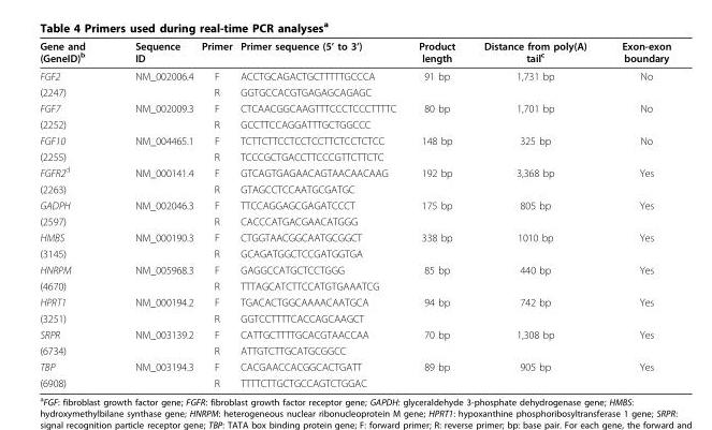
<table><thead><tr><td>Gene and (GeneID)<sup>b</sup></td><td>Sequence ID</td><td>Primer</td><td>Primer sequence (5’ to 3’)</td><td>Product length</td><td>Distance from poly(A) tail<sup>c</sup></td><td>Exon-exon boundary</td></tr></thead><tbody><tr><td>FGF2</td><td>NM_002006.4</td><td>F</td><td>ACCTGCAGACTGCTTTTTGCCCA</td><td>91 bp</td><td>1,731 bp</td><td>No</td></tr><tr><td>(2247)</td><td></td><td>R</td><td>GGTGCCACGTGAGAGCAGAGC</td><td></td><td></td><td></td></tr><tr><td>FGF7</td><td>NM_002009.3</td><td>F</td><td>CTCAACGGCAAGTTTCCCTCCCTTTTC</td><td>80 bp</td><td>1,701 bp</td><td>No</td></tr><tr><td>(2252)</td><td></td><td>R</td><td>GCCTTCCAGGATTTGCTGGCCC</td><td></td><td></td><td></td></tr><tr><td>FGF10</td><td>NM_004465.1</td><td>F</td><td>TCTTCTTCCTCCTCCTTCTCCTCTCC</td><td>148 bp</td><td>325 bp</td><td>No</td></tr><tr><td>(2255)</td><td></td><td>R</td><td>TCCCGCTGACCTTCCCGTTCTTCTC</td><td></td><td></td><td></td></tr><tr><td>FGFR2<sup>d</sup></td><td>NM_000141.4</td><td>F</td><td>GTCAGTGAGAACAGTAACAACAAG</td><td>192 bp</td><td>3,368 bp</td><td>Yes</td></tr><tr><td>(2263)</td><td></td><td>R</td><td>GTAGCCTCCAATGCGATGC</td><td></td><td></td><td></td></tr><tr><td>GADPH</td><td>NM_002046.3</td><td>F</td><td>TTCCAGGAGCGAGATCCCT</td><td>175 bp</td><td>805 bp</td><td>Yes</td></tr><tr><td>(2597)</td><td></td><td>R</td><td>CACCCATGACGAACATGGG</td><td></td><td></td><td></td></tr><tr><td>HMBS</td><td>NM_000190.3</td><td>F</td><td>CTGGTAACGGCAATGCGGCT</td><td>338 bp</td><td>1010 bp</td><td>Yes</td></tr><tr><td>(3145)</td><td></td><td>R</td><td>GCAGATGGCTCCGATGGTGA</td><td></td><td></td><td></td></tr><tr><td>HNRPM</td><td>NM_005968.3</td><td>F</td><td>GAGGCCATGCTCCTGGG</td><td>85 bp</td><td>440 bp</td><td>Yes</td></tr><tr><td>(4670)</td><td></td><td>R</td><td>TTTAGCATCTTCCATGTGAAATCG</td><td></td><td></td><td></td></tr><tr><td>HPRT1</td><td>NM_000194.2</td><td>F</td><td>TGACACTGGCAAAACAATGCA</td><td>94 bp</td><td>742 bp</td><td>Yes</td></tr><tr><td>(3251)</td><td></td><td>R</td><td>GGTCCTTTTCACCAGCAAGCT</td><td></td><td></td><td></td></tr><tr><td>SRPR</td><td>NM_003139.2</td><td>F</td><td>CATTGCTTTTGCACGTAACCAA</td><td>70 bp</td><td>1,308 bp</td><td>Yes</td></tr><tr><td>(6734)</td><td></td><td>R</td><td>ATTGTCTTGCATGCGGCC</td><td></td><td></td><td></td></tr><tr><td>TBP</td><td>NM_003194.3</td><td>F</td><td>CACGAACCACGGCACTGATT</td><td>89 bp</td><td>905 bp</td><td>Yes</td></tr><tr><td>(6908)</td><td></td><td>R</td><td>TTTTCTTGCTGCCAGTCTGGAC</td><td></td><td></td><td></td></tr></tbody></table>